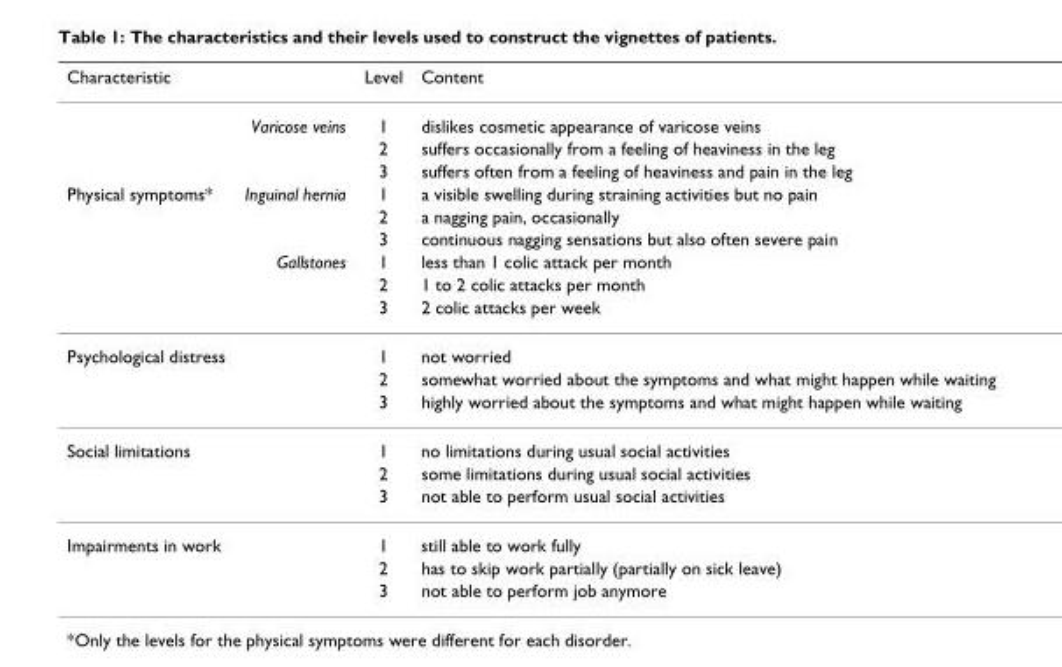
<table><thead><tr><td>Characteristic</td><td></td><td>Level</td><td>Content</td></tr></thead><tbody><tr><td></td><td>Varicose veins</td><td>1</td><td>dislikes cosmetic appearance of varicose veins</td></tr><tr><td></td><td></td><td>2</td><td>suffers occasionally from a feeling of heaviness in the leg</td></tr><tr><td></td><td></td><td>3</td><td>suffers often from a feeling of heaviness and pain in the leg</td></tr><tr><td rowspan="6">Physical symptoms*</td><td>Inguinal hernia</td><td>1</td><td>a visible swelling during straining activities but no pain</td></tr><tr><td></td><td>2</td><td>a nagging pain, occasionally</td></tr><tr><td></td><td>3</td><td>continuous nagging sensations but also often severe pain</td></tr><tr><td>Gallstones</td><td>1</td><td>less than 1 colic attack per month</td></tr><tr><td></td><td>2</td><td>1 to 2 colic attacks per month</td></tr><tr><td></td><td>3</td><td>2 colic attacks per week</td></tr><tr><td rowspan="3">Psychological distress</td><td></td><td>1</td><td>not worried</td></tr><tr><td></td><td>2</td><td>somewhat worried about the symptoms and what might happen while waiting</td></tr><tr><td></td><td>3</td><td>highly worried about the symptoms and what might happen while waiting</td></tr><tr><td rowspan="3">Social limitations</td><td></td><td>1</td><td>no limitations during usual social activities</td></tr><tr><td></td><td>2</td><td>some limitations during usual social activities</td></tr><tr><td></td><td>3</td><td>not able to perform usual social activities</td></tr><tr><td rowspan="3">Impairments in work</td><td></td><td>1</td><td>still able to work fully</td></tr><tr><td></td><td>2</td><td>has to skip work partially (partially on sick leave)</td></tr><tr><td></td><td>3</td><td>not able to perform job anymore</td></tr></tbody></table>